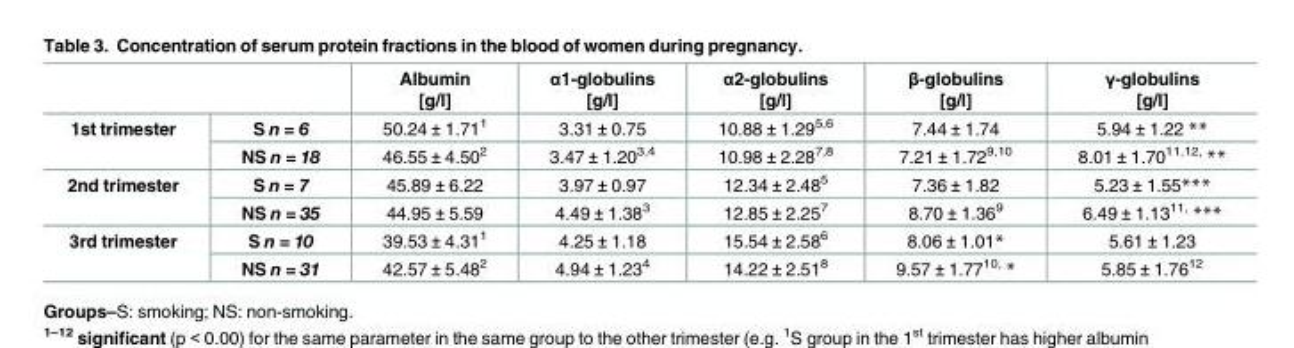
<table><thead><tr><td></td><td></td><td>Albumin [g/l]</td><td>α1-globulins [g/l]</td><td>α2-globulins [g/l]</td><td>β-globulins [g/l]</td><td>γ-globulins [g/l]</td></tr></thead><tbody><tr><td rowspan="2">1st trimester</td><td>S n = 6</td><td>50.24 ± 1.71<sup>1</sup></td><td>3.31 ± 0.75</td><td>10.88 ± 1.29<sup>5,6</sup></td><td>7.44 ± 1.74</td><td>5.94 ± 1.22 **</td></tr><tr><td>NS n = 18</td><td>46.55 ± 4.50<sup>2</sup></td><td>3.47 ± 1.20<sup>3,4</sup></td><td>10.98 ± 2.28<sup>7,8</sup></td><td>7.21 ± 1.72<sup>9,10</sup></td><td>8.01 ± 1.70<sup>11,12,</sup> **</td></tr><tr><td rowspan="2">2nd trimester</td><td>S n = 7</td><td>45.89 ± 6.22</td><td>3.97 ± 0.97</td><td>12.34 ± 2.48<sup>5</sup></td><td>7.36 ± 1.82</td><td>5.23 ± 1.55***</td></tr><tr><td>NS n = 35</td><td>44.95 ± 5.59</td><td>4.49 ± 1.38<sup>3</sup></td><td>12.85 ± 2.25<sup>7</sup></td><td>8.70 ± 1.36<sup>9</sup></td><td>6.49 ± 1.13<sup>11,</sup> ***</td></tr><tr><td rowspan="2">3rd trimester</td><td>S n = 10</td><td>39.53 ± 4.31<sup>1</sup></td><td>4.25 ± 1.18</td><td>15.54 ± 2.58<sup>6</sup></td><td>8.06 ± 1.01*</td><td>5.61 ± 1.23</td></tr><tr><td>NS n = 31</td><td>42.57 ± 5.48<sup>2</sup></td><td>4.94 ± 1.23<sup>4</sup></td><td>14.22 ± 2.51<sup>8</sup></td><td>9.57 ± 1.77<sup>10,</sup> *</td><td>5.85 ± 1.76<sup>12</sup></td></tr></tbody></table>